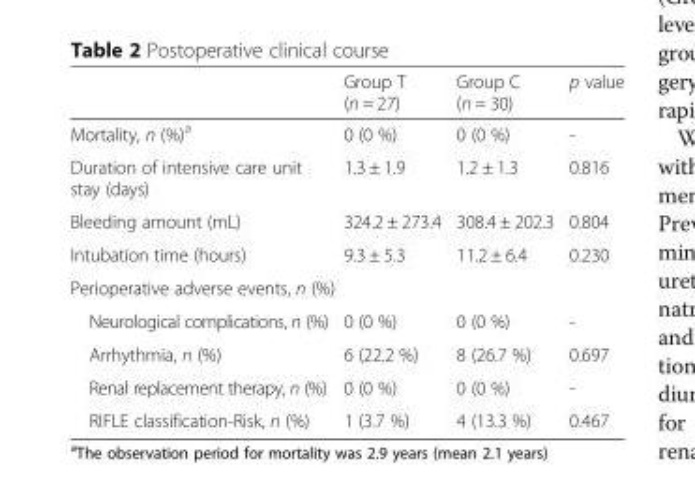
<table><thead><tr><td></td><td>Group T (n = 27)</td><td>Group C (n = 30)</td><td>p value</td></tr></thead><tbody><tr><td>Mortality, n (%)<sup>a</sup></td><td>0 (0 %)</td><td>0 (0 %)</td><td>-</td></tr><tr><td>Duration of intensive care unit stay (days)</td><td>1.3 ± 1.9</td><td>1.2 ± 1.3</td><td>0.816</td></tr><tr><td>Bleeding amount (mL)</td><td>324.2 ± 273.4</td><td>308.4 ± 202.3</td><td>0.804</td></tr><tr><td>Intubation time (hours)</td><td>9.3 ± 5.3</td><td>11.2 ± 6.4</td><td>0.230</td></tr><tr><td colspan="4">Perioperative adverse events, n (%)</td></tr><tr><td>Neurological complications, n (%)</td><td>0 (0 %)</td><td>0 (0 %)</td><td>-</td></tr><tr><td>Arrhythmia, n (%)</td><td>6 (22.2 %)</td><td>8 (26.7 %)</td><td>0.697</td></tr><tr><td>Renal replacement therapy, n (%)</td><td>0 (0 %)</td><td>0 (0 %)</td><td>-</td></tr><tr><td>RIFLE classification-Risk, n (%)</td><td>1 (3.7 %)</td><td>4 (13.3 %)</td><td>0.467</td></tr></tbody></table>